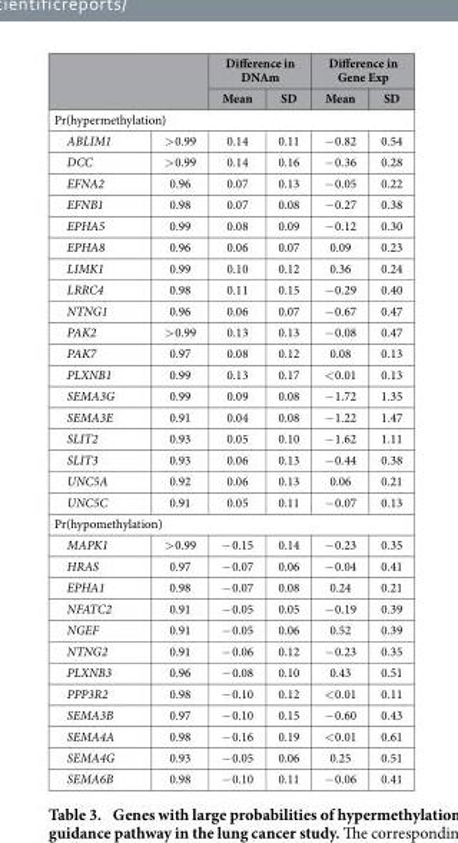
<table><thead><tr><td rowspan="2"></td><td rowspan="2"></td><td colspan="2">Difference in DNAm</td><td colspan="2">Difference in Gene Exp</td></tr><tr><td>Mean</td><td>SD</td><td>Mean</td><td>SD</td></tr></thead><tbody><tr><td colspan="6">Pr(hypermethylation)</td></tr><tr><td>ABLIM1</td><td>&gt; 0.99</td><td>0.14</td><td>0.11</td><td>− 0.82</td><td>0.54</td></tr><tr><td>DCC</td><td>&gt; 0.99</td><td>0.14</td><td>0.16</td><td>− 0.36</td><td>0.28</td></tr><tr><td>EFNA2</td><td>0.96</td><td>0.07</td><td>0.13</td><td>− 0.05</td><td>0.22</td></tr><tr><td>EFNB1</td><td>0.98</td><td>0.07</td><td>0.08</td><td>− 0.27</td><td>0.38</td></tr><tr><td>EPHA5</td><td>0.99</td><td>0.08</td><td>0.09</td><td>− 0.12</td><td>0.30</td></tr><tr><td>EPHA8</td><td>0.96</td><td>0.06</td><td>0.07</td><td>0.09</td><td>0.23</td></tr><tr><td>LIMK1</td><td>0.99</td><td>0.10</td><td>0.12</td><td>0.36</td><td>0.24</td></tr><tr><td>LRRC4</td><td>0.98</td><td>0.11</td><td>0.15</td><td>− 0.29</td><td>0.40</td></tr><tr><td>NTNG1</td><td>0.96</td><td>0.06</td><td>0.07</td><td>− 0.67</td><td>0.47</td></tr><tr><td>PAK2</td><td>&gt; 0.99</td><td>0.13</td><td>0.13</td><td>− 0.08</td><td>0.47</td></tr><tr><td>PAK7</td><td>0.97</td><td>0.08</td><td>0.12</td><td>0.08</td><td>0.13</td></tr><tr><td>PLXNB1</td><td>0.99</td><td>0.13</td><td>0.17</td><td>&lt; 0.01</td><td>0.13</td></tr><tr><td>SEMA3G</td><td>0.99</td><td>0.09</td><td>0.08</td><td>− 1.72</td><td>1.35</td></tr><tr><td>SEMA3E</td><td>0.91</td><td>0.04</td><td>0.08</td><td>− 1.22</td><td>1.47</td></tr><tr><td>SLIT2</td><td>0.93</td><td>0.05</td><td>0.10</td><td>− 1.62</td><td>1.11</td></tr><tr><td>SLIT3</td><td>0.93</td><td>0.06</td><td>0.13</td><td>− 0.44</td><td>0.38</td></tr><tr><td>UNC5A</td><td>0.92</td><td>0.06</td><td>0.13</td><td>0.06</td><td>0.21</td></tr><tr><td>UNC5C</td><td>0.91</td><td>0.05</td><td>0.11</td><td>− 0.07</td><td>0.13</td></tr><tr><td colspan="6">Pr(hypomethylation)</td></tr><tr><td>MAPK1</td><td>&gt; 0.99</td><td>− 0.15</td><td>0.14</td><td>− 0.23</td><td>0.35</td></tr><tr><td>HRAS</td><td>0.97</td><td>− 0.07</td><td>0.06</td><td>− 0.04</td><td>0.41</td></tr><tr><td>EPHA1</td><td>0.98</td><td>− 0.07</td><td>0.08</td><td>0.24</td><td>0.21</td></tr><tr><td>NFATC2</td><td>0.91</td><td>− 0.05</td><td>0.05</td><td>− 0.19</td><td>0.39</td></tr><tr><td>NGEF</td><td>0.91</td><td>− 0.05</td><td>0.06</td><td>0.52</td><td>0.39</td></tr><tr><td>NTNG2</td><td>0.91</td><td>− 0.06</td><td>0.12</td><td>− 0.23</td><td>0.35</td></tr><tr><td>PLXNB3</td><td>0.96</td><td>− 0.08</td><td>0.10</td><td>0.43</td><td>0.51</td></tr><tr><td>PPP3R2</td><td>0.98</td><td>− 0.10</td><td>0.12</td><td>&lt; 0.01</td><td>0.11</td></tr><tr><td>SEMA3B</td><td>0.97</td><td>− 0.10</td><td>0.15</td><td>− 0.60</td><td>0.43</td></tr><tr><td>SEMA4A</td><td>0.98</td><td>− 0.16</td><td>0.19</td><td>&lt; 0.01</td><td>0.61</td></tr><tr><td>SEMA4G</td><td>0.93</td><td>− 0.05</td><td>0.06</td><td>0.25</td><td>0.51</td></tr><tr><td>SEMA6B</td><td>0.98</td><td>− 0.10</td><td>0.11</td><td>− 0.06</td><td>0.41</td></tr></tbody></table>